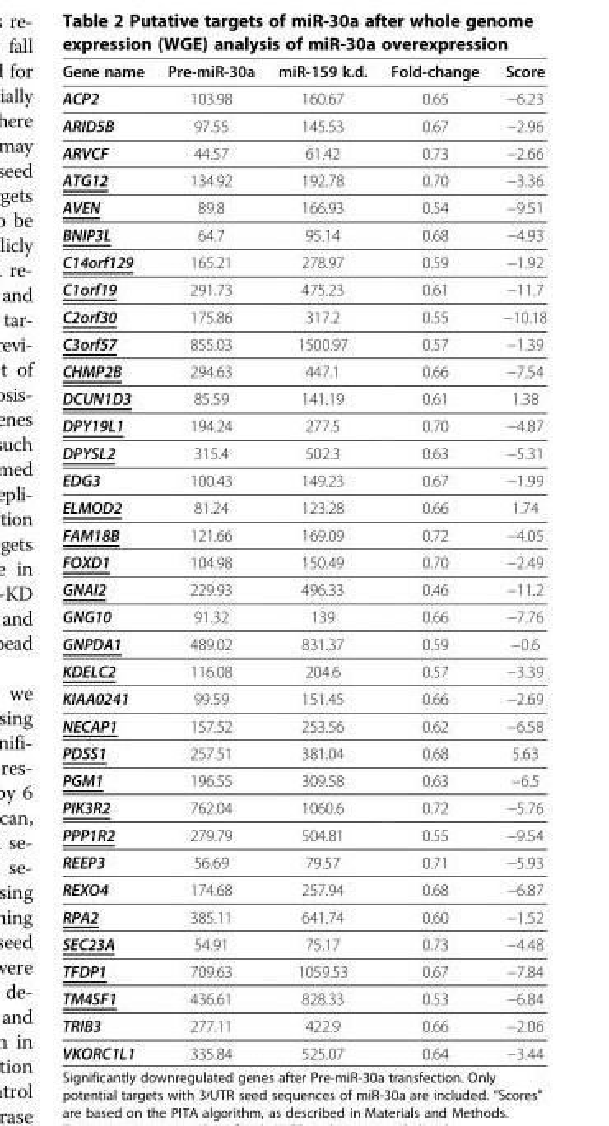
<table><thead><tr><td>Gene name</td><td>Pre-miR-30a</td><td>miR-159 k.d.</td><td>Fold-change</td><td>Score</td></tr></thead><tbody><tr><td>ACP2</td><td>103.98</td><td>160.67</td><td>0.65</td><td>−6.23</td></tr><tr><td>ARID5B</td><td>97.55</td><td>145.53</td><td>0.67</td><td>−2.96</td></tr><tr><td>ARVCF</td><td>44.57</td><td>61.42</td><td>0.73</td><td>−2.66</td></tr><tr><td>ATG12</td><td>134.92</td><td>192.78</td><td>0.70</td><td>−3.36</td></tr><tr><td>AVEN</td><td>89.8</td><td>166.93</td><td>0.54</td><td>−9.51</td></tr><tr><td>BNIP3L</td><td>64.7</td><td>95.14</td><td>0.68</td><td>−4.93</td></tr><tr><td>C14orf129</td><td>165.21</td><td>278.97</td><td>0.59</td><td>−1.92</td></tr><tr><td>C1orf19</td><td>291.73</td><td>475.23</td><td>0.61</td><td>−11.7</td></tr><tr><td>C2orf30</td><td>175.86</td><td>317.2</td><td>0.55</td><td>−10.18</td></tr><tr><td>C3orf57</td><td>855.03</td><td>1500.97</td><td>0.57</td><td>−1.39</td></tr><tr><td>CHMP2B</td><td>294.63</td><td>447.1</td><td>0.66</td><td>−7.54</td></tr><tr><td>DCUN1D3</td><td>85.59</td><td>141.19</td><td>0.61</td><td>1.38</td></tr><tr><td>DPY19L1</td><td>194.24</td><td>277.5</td><td>0.70</td><td>−4.87</td></tr><tr><td>DPYSL2</td><td>315.4</td><td>502.3</td><td>0.63</td><td>−5.31</td></tr><tr><td>EDG3</td><td>100.43</td><td>149.23</td><td>0.67</td><td>−1.99</td></tr><tr><td>ELMOD2</td><td>81.24</td><td>123.28</td><td>0.66</td><td>1.74</td></tr><tr><td>FAM18B</td><td>121.66</td><td>169.09</td><td>0.72</td><td>−4.05</td></tr><tr><td>FOXD1</td><td>104.98</td><td>150.49</td><td>0.70</td><td>−2.49</td></tr><tr><td>GNAI2</td><td>229.93</td><td>496.33</td><td>0.46</td><td>−11.2</td></tr><tr><td>GNG10</td><td>91.32</td><td>139</td><td>0.66</td><td>−7.76</td></tr><tr><td>GNPDA1</td><td>489.02</td><td>831.37</td><td>0.59</td><td>−0.6</td></tr><tr><td>KDELC2</td><td>116.08</td><td>204.6</td><td>0.57</td><td>−3.39</td></tr><tr><td>KIAA0241</td><td>99.59</td><td>151.45</td><td>0.66</td><td>−2.69</td></tr><tr><td>NECAP1</td><td>157.52</td><td>253.56</td><td>0.62</td><td>−6.58</td></tr><tr><td>PDSS1</td><td>257.51</td><td>381.04</td><td>0.68</td><td>5.63</td></tr><tr><td>PGM1</td><td>196.55</td><td>309.58</td><td>0.63</td><td>−6.5</td></tr><tr><td>PIK3R2</td><td>762.04</td><td>1060.6</td><td>0.72</td><td>−5.76</td></tr><tr><td>PPP1R2</td><td>279.79</td><td>504.81</td><td>0.55</td><td>−9.54</td></tr><tr><td>REEP3</td><td>56.69</td><td>79.57</td><td>0.71</td><td>−5.93</td></tr><tr><td>REXO4</td><td>174.68</td><td>257.94</td><td>0.68</td><td>−6.87</td></tr><tr><td>RPA2</td><td>385.11</td><td>641.74</td><td>0.60</td><td>−1.52</td></tr><tr><td>SEC23A</td><td>54.91</td><td>75.17</td><td>0.73</td><td>−4.48</td></tr><tr><td>TFDP1</td><td>709.63</td><td>1059.53</td><td>0.67</td><td>−7.84</td></tr><tr><td>TM4SF1</td><td>436.61</td><td>828.33</td><td>0.53</td><td>−6.84</td></tr><tr><td>TRIB3</td><td>277.11</td><td>422.9</td><td>0.66</td><td>−2.06</td></tr><tr><td>VKORC1L1</td><td>335.84</td><td>525.07</td><td>0.64</td><td>−3.44</td></tr></tbody></table>